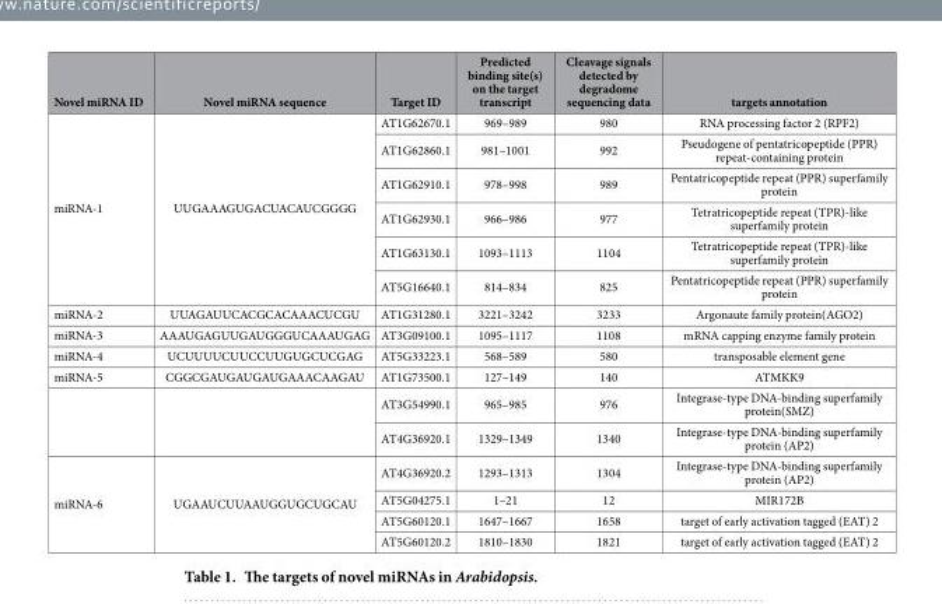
<table><thead><tr><td>Novel miRNA ID</td><td>Novel miRNA sequence</td><td>Target ID</td><td>Predicted binding site(s) on the target transcript</td><td>Cleavage signals detected by degradome sequencing data</td><td>targets annotation</td></tr></thead><tbody><tr><td rowspan="6">miRNA-1</td><td rowspan="6">UUGAAAGUGACUACAUCGGGG</td><td>AT1G62670.1</td><td>969–989</td><td>980</td><td>RNA processing factor 2 (RPF2)</td></tr><tr><td>AT1G62860.1</td><td>981–1001</td><td>992</td><td>Pseudogene of pentatricopeptide (PPR) repeat-containing protein</td></tr><tr><td>AT1G62910.1</td><td>978–998</td><td>989</td><td>Pentatricopeptide repeat (PPR) superfamily protein</td></tr><tr><td>AT1G62930.1</td><td>966–986</td><td>977</td><td>Tetratricopeptide repeat (TPR)-like superfamily protein</td></tr><tr><td>AT1G63130.1</td><td>1093–1113</td><td>1104</td><td>Tetratricopeptide repeat (TPR)-like superfamily protein</td></tr><tr><td>AT5G16640.1</td><td>814–834</td><td>825</td><td>Pentatricopeptide repeat (PPR) superfamily protein</td></tr><tr><td>miRNA-2</td><td>UUAGAUUCACGCACAAACUCGU</td><td>AT1G31280.1</td><td>3221–3242</td><td>3233</td><td>Argonaute family protein(AGO2)</td></tr><tr><td>miRNA-3</td><td>AAAUGAGUUGAUGGGUCAAAUGAG</td><td>AT3G09100.1</td><td>1095–1117</td><td>1108</td><td>mRNA capping enzyme family protein</td></tr><tr><td>miRNA-4</td><td>UCUUUUCUUCCUUGUGCUCGAG</td><td>AT5G33223.1</td><td>568–589</td><td>580</td><td>transposable element gene</td></tr><tr><td rowspan="3">miRNA-5</td><td>CGGCGAUGAUGAUGAAACAAGAU</td><td>AT1G73500.1</td><td>127–149</td><td>140</td><td>ATMKK9</td></tr><tr><td rowspan="2"></td><td>AT3G54990.1</td><td>965–985</td><td>976</td><td>Integrase-type DNA-binding superfamily protein(SMZ)</td></tr><tr><td>AT4G36920.1</td><td>1329–1349</td><td>1340</td><td>Integrase-type DNA-binding superfamily protein (AP2)</td></tr><tr><td rowspan="4">miRNA-6</td><td rowspan="4">UGAAUCUUAAUGGUGCUGCAU</td><td>AT4G36920.2</td><td>1293–1313</td><td>1304</td><td>Integrase-type DNA-binding superfamily protein (AP2)</td></tr><tr><td>AT5G04275.1</td><td>1–21</td><td>12</td><td>MIR172B</td></tr><tr><td>AT5G60120.1</td><td>1647–1667</td><td>1658</td><td>target of early activation tagged (EAT) 2</td></tr><tr><td>AT5G60120.2</td><td>1810–1830</td><td>1821</td><td>target of early activation tagged (EAT) 2</td></tr></tbody></table>